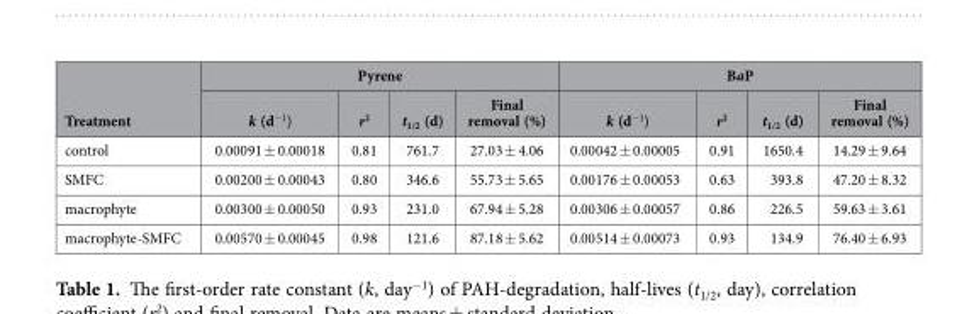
<table><thead><tr><td rowspan="2">Treatment</td><td colspan="4">Pyrene</td><td colspan="4">BaP</td></tr><tr><td>k (d<sup>−1</sup>)</td><td>r<sup>2</sup></td><td>t<sub>1/2</sub> (d)</td><td>Final removal (%)</td><td>k (d<sup>−1</sup>)</td><td>r<sup>2</sup></td><td>t<sub>1/2</sub> (d)</td><td>Final removal (%)</td></tr></thead><tbody><tr><td>control</td><td>0.00091 ± 0.00018</td><td>0.81</td><td>761.7</td><td>27.03 ± 4.06</td><td>0.00042 ± 0.00005</td><td>0.91</td><td>1650.4</td><td>14.29 ± 9.64</td></tr><tr><td>SMFC</td><td>0.00200 ± 0.00043</td><td>0.80</td><td>346.6</td><td>55.73 ± 5.65</td><td>0.00176 ± 0.00053</td><td>0.63</td><td>393.8</td><td>47.20 ± 8.32</td></tr><tr><td>macrophyte</td><td>0.00300 ± 0.00050</td><td>0.93</td><td>231.0</td><td>67.94 ± 5.28</td><td>0.00306 ± 0.00057</td><td>0.86</td><td>226.5</td><td>59.63 ± 3.61</td></tr><tr><td>macrophyte-SMFC</td><td>0.00570 ± 0.00045</td><td>0.98</td><td>121.6</td><td>87.18 ± 5.62</td><td>0.00514 ± 0.00073</td><td>0.93</td><td>134.9</td><td>76.40 ± 6.93</td></tr></tbody></table>